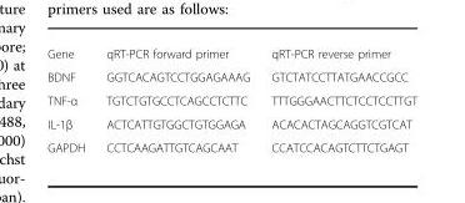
<table><tbody><tr><td>Gene</td><td>qRT-PCR forward primer</td><td>qRT-PCR reverse primer</td></tr><tr><td>BDNF</td><td>GGTCACAGTCCTGGAGAAAG</td><td>GTCTATCCTTATGAACCGCC</td></tr><tr><td>TNF-α</td><td>TGTCTGTGCCTCAGCCTCTTC</td><td>TTTGGGAACTTCTCCTCCTTGT</td></tr><tr><td>IL-1β</td><td>ACTCATTGTGGCTGTGGAGA</td><td>ACACACTAGCAGGTCGTCAT</td></tr><tr><td>GAPDH</td><td>CCTCAAGATTGTCAGCAAT</td><td>CCATCCACAGTCTTCTGAGT</td></tr></tbody></table>